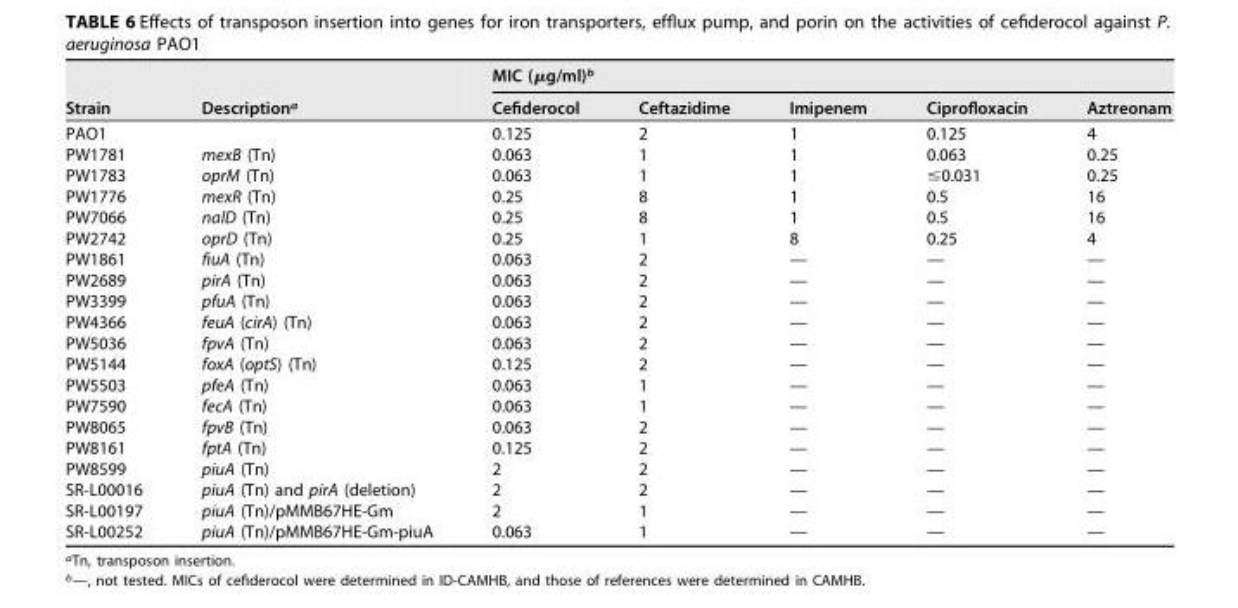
<table><thead><tr><td rowspan="2">Strain</td><td rowspan="2">Description<sup>a</sup></td><td colspan="5">MIC (μg/ml)<sup>b</sup></td></tr><tr><td>Cefiderocol</td><td>Ceftazidime</td><td>Imipenem</td><td>Ciprofloxacin</td><td>Aztreonam</td></tr></thead><tbody><tr><td>PAO1</td><td></td><td>0.125</td><td>2</td><td>1</td><td>0.125</td><td>4</td></tr><tr><td>PW1781</td><td>mexB (Tn)</td><td>0.063</td><td>1</td><td>1</td><td>0.063</td><td>0.25</td></tr><tr><td>PW1783</td><td>oprM (Tn)</td><td>0.063</td><td>1</td><td>1</td><td>≤0.031</td><td>0.25</td></tr><tr><td>PW1776</td><td>mexR (Tn)</td><td>0.25</td><td>8</td><td>1</td><td>0.5</td><td>16</td></tr><tr><td>PW7066</td><td>nalD (Tn)</td><td>0.25</td><td>8</td><td>1</td><td>0.5</td><td>16</td></tr><tr><td>PW2742</td><td>oprD (Tn)</td><td>0.25</td><td>1</td><td>8</td><td>0.25</td><td>4</td></tr><tr><td>PW1861</td><td>fiuA (Tn)</td><td>0.063</td><td>2</td><td>—</td><td>—</td><td>—</td></tr><tr><td>PW2689</td><td>pirA (Tn)</td><td>0.063</td><td>2</td><td>—</td><td>—</td><td>—</td></tr><tr><td>PW3399</td><td>pfuA (Tn)</td><td>0.063</td><td>2</td><td>—</td><td>—</td><td>—</td></tr><tr><td>PW4366</td><td>feuA (cirA) (Tn)</td><td>0.063</td><td>2</td><td>—</td><td>—</td><td>—</td></tr><tr><td>PW5036</td><td>fpvA (Tn)</td><td>0.063</td><td>2</td><td>—</td><td>—</td><td>—</td></tr><tr><td>PW5144</td><td>foxA (optS) (Tn)</td><td>0.125</td><td>2</td><td>—</td><td>—</td><td>—</td></tr><tr><td>PW5503</td><td>pfeA (Tn)</td><td>0.063</td><td>1</td><td>—</td><td>—</td><td>—</td></tr><tr><td>PW7590</td><td>fecA (Tn)</td><td>0.063</td><td>1</td><td>—</td><td>—</td><td>—</td></tr><tr><td>PW8065</td><td>fpvB (Tn)</td><td>0.063</td><td>2</td><td>—</td><td>—</td><td>—</td></tr><tr><td>PW8161</td><td>fptA (Tn)</td><td>0.125</td><td>2</td><td>—</td><td>—</td><td>—</td></tr><tr><td>PW8599</td><td>piuA (Tn)</td><td>2</td><td>2</td><td>—</td><td>—</td><td>—</td></tr><tr><td>SR-L00016</td><td>piuA (Tn) and pirA (deletion)</td><td>2</td><td>2</td><td>—</td><td>—</td><td>—</td></tr><tr><td>SR-L00197</td><td>piuA (Tn)/pMMB67HE-Gm</td><td>2</td><td>1</td><td>—</td><td>—</td><td>—</td></tr><tr><td>SR-L00252</td><td>piuA (Tn)/pMMB67HE-Gm-piuA</td><td>0.063</td><td>1</td><td>—</td><td>—</td><td>—</td></tr></tbody></table>